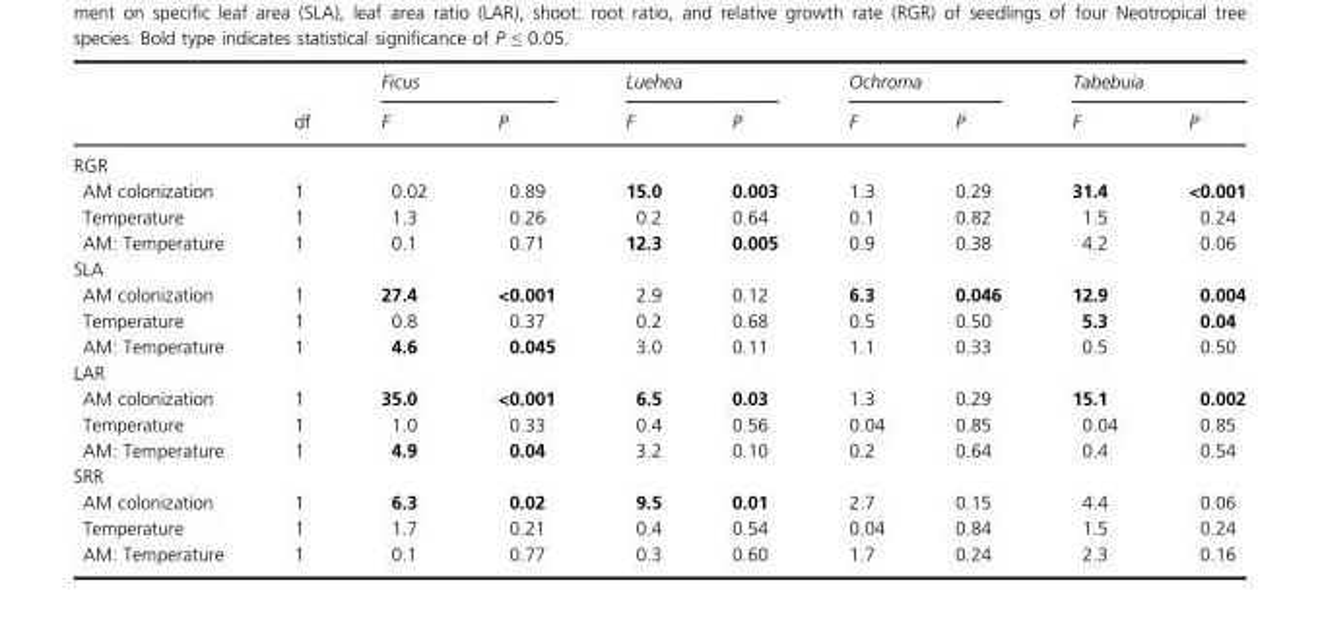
<table><thead><tr><td rowspan="2"></td><td rowspan="2">df</td><td colspan="2">Ficus</td><td colspan="2">Luehea</td><td colspan="2">Ochroma</td><td colspan="2">Tabebuia</td></tr><tr><td>F</td><td>P</td><td>F</td><td>P</td><td>F</td><td>P</td><td>F</td><td>P</td></tr></thead><tbody><tr><td colspan="10">RGR</td></tr><tr><td>AM colonization</td><td>1</td><td>0.02</td><td>0.89</td><td>15.0</td><td>0.003</td><td>1.3</td><td>0.29</td><td>31.4</td><td>&lt;0.001</td></tr><tr><td>Temperature</td><td>1</td><td>1.3</td><td>0.26</td><td>0.2</td><td>0.64</td><td>0.1</td><td>0.82</td><td>1.5</td><td>0.24</td></tr><tr><td>AM: Temperature</td><td>1</td><td>0.1</td><td>0.71</td><td>12.3</td><td>0.005</td><td>0.9</td><td>0.38</td><td>4.2</td><td>0.06</td></tr><tr><td colspan="10">SLA</td></tr><tr><td>AM colonization</td><td>1</td><td>27.4</td><td>&lt;0.001</td><td>2.9</td><td>0.12</td><td>6.3</td><td>0.046</td><td>12.9</td><td>0.004</td></tr><tr><td>Temperature</td><td>1</td><td>0.8</td><td>0.37</td><td>0.2</td><td>0.68</td><td>0.5</td><td>0.50</td><td>5.3</td><td>0.04</td></tr><tr><td>AM: Temperature</td><td>1</td><td>4.6</td><td>0.045</td><td>3.0</td><td>0.11</td><td>1.1</td><td>0.33</td><td>0.5</td><td>0.50</td></tr><tr><td colspan="10">LAR</td></tr><tr><td>AM colonization</td><td>1</td><td>35.0</td><td>&lt;0.001</td><td>6.5</td><td>0.03</td><td>1.3</td><td>0.29</td><td>15.1</td><td>0.002</td></tr><tr><td>Temperature</td><td>1</td><td>1.0</td><td>0.33</td><td>0.4</td><td>0.56</td><td>0.04</td><td>0.85</td><td>0.04</td><td>0.85</td></tr><tr><td>AM: Temperature</td><td>1</td><td>4.9</td><td>0.04</td><td>3.2</td><td>0.10</td><td>0.2</td><td>0.64</td><td>0.4</td><td>0.54</td></tr><tr><td colspan="10">SRR</td></tr><tr><td>AM colonization</td><td>1</td><td>6.3</td><td>0.02</td><td>9.5</td><td>0.01</td><td>2.7</td><td>0.15</td><td>4.4</td><td>0.06</td></tr><tr><td>Temperature</td><td>1</td><td>1.7</td><td>0.21</td><td>0.4</td><td>0.54</td><td>0.04</td><td>0.84</td><td>1.5</td><td>0.24</td></tr><tr><td>AM: Temperature</td><td>1</td><td>0.1</td><td>0.77</td><td>0.3</td><td>0.60</td><td>1.7</td><td>0.24</td><td>2.3</td><td>0.16</td></tr></tbody></table>